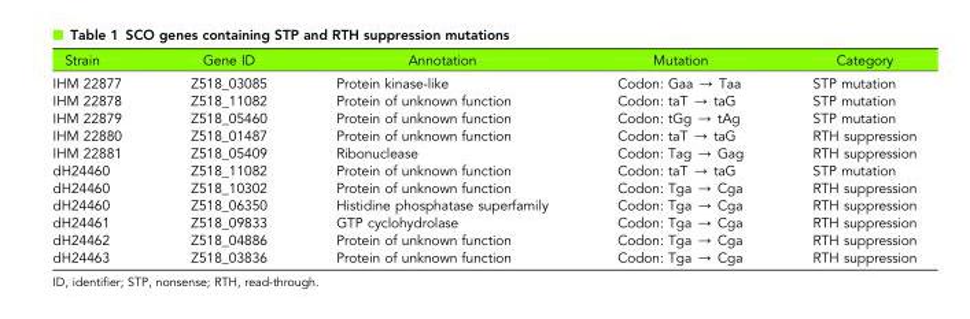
<table><thead><tr><td>Strain</td><td>Gene ID</td><td>Annotation</td><td>Mutation</td><td>Category</td></tr></thead><tbody><tr><td>IHM 22877</td><td>Z518_03085</td><td>Protein kinase-like</td><td>Codon: Gaa → Taa</td><td>STP mutation</td></tr><tr><td>IHM 22878</td><td>Z518_11082</td><td>Protein of unknown function</td><td>Codon: taT → taG</td><td>STP mutation</td></tr><tr><td>IHM 22879</td><td>Z518_05460</td><td>Protein of unknown function</td><td>Codon: tGg → tAg</td><td>STP mutation</td></tr><tr><td>IHM 22880</td><td>Z518_01487</td><td>Protein of unknown function</td><td>Codon: taT → taG</td><td>RTH suppression</td></tr><tr><td>IHM 22881</td><td>Z518_05409</td><td>Ribonuclease</td><td>Codon: Tag → Gag</td><td>RTH suppression</td></tr><tr><td>dH24460</td><td>Z518_11082</td><td>Protein of unknown function</td><td>Codon: taT → taG</td><td>STP mutation</td></tr><tr><td>dH24460</td><td>Z518_10302</td><td>Protein of unknown function</td><td>Codon: Tga → Cga</td><td>RTH suppression</td></tr><tr><td>dH24460</td><td>Z518_06350</td><td>Histidine phosphatase superfamily</td><td>Codon: Tga → Cga</td><td>RTH suppression</td></tr><tr><td>dH24461</td><td>Z518_09833</td><td>GTP cyclohydrolase</td><td>Codon: Tga → Cga</td><td>RTH suppression</td></tr><tr><td>dH24462</td><td>Z518_04886</td><td>Protein of unknown function</td><td>Codon: Tga → Cga</td><td>RTH suppression</td></tr><tr><td>dH24463</td><td>Z518_03836</td><td>Protein of unknown function</td><td>Codon: Tga → Cga</td><td>RTH suppression</td></tr></tbody></table>